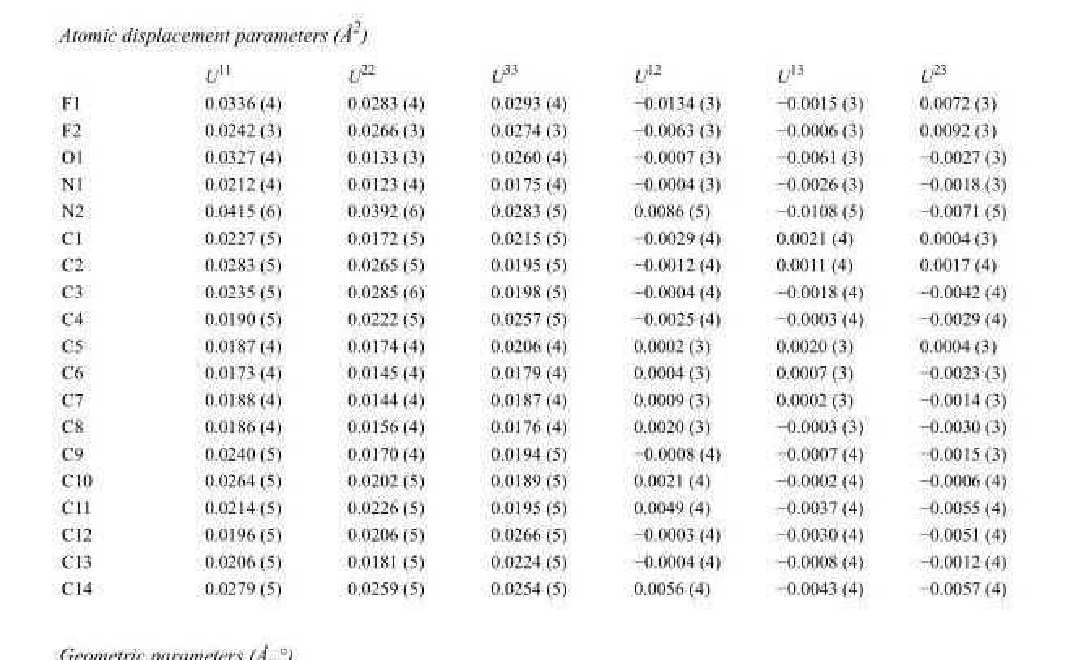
<table><thead><tr><td></td><td>U<sup>11</sup></td><td>U<sup>22</sup></td><td>U<sup>33</sup></td><td>U<sup>12</sup></td><td>U<sup>13</sup></td><td>U<sup>23</sup></td></tr></thead><tbody><tr><td>F1</td><td>0.0336 (4)</td><td>0.0283 (4)</td><td>0.0293 (4)</td><td>−0.0134 (3)</td><td>−0.0015 (3)</td><td>0.0072 (3)</td></tr><tr><td>F2</td><td>0.0242 (3)</td><td>0.0266 (3)</td><td>0.0274 (3)</td><td>−0.0063 (3)</td><td>−0.0006 (3)</td><td>0.0092 (3)</td></tr><tr><td>O1</td><td>0.0327 (4)</td><td>0.0133 (3)</td><td>0.0260 (4)</td><td>−0.0007 (3)</td><td>−0.0061 (3)</td><td>−0.0027 (3)</td></tr><tr><td>N1</td><td>0.0212 (4)</td><td>0.0123 (4)</td><td>0.0175 (4)</td><td>−0.0004 (3)</td><td>−0.0026 (3)</td><td>−0.0018 (3)</td></tr><tr><td>N2</td><td>0.0415 (6)</td><td>0.0392 (6)</td><td>0.0283 (5)</td><td>0.0086 (5)</td><td>−0.0108 (5)</td><td>−0.0071 (5)</td></tr><tr><td>C1</td><td>0.0227 (5)</td><td>0.0172 (5)</td><td>0.0215 (5)</td><td>−0.0029 (4)</td><td>0.0021 (4)</td><td>0.0004 (3)</td></tr><tr><td>C2</td><td>0.0283 (5)</td><td>0.0265 (5)</td><td>0.0195 (5)</td><td>−0.0012 (4)</td><td>0.0011 (4)</td><td>0.0017 (4)</td></tr><tr><td>C3</td><td>0.0235 (5)</td><td>0.0285 (6)</td><td>0.0198 (5)</td><td>−0.0004 (4)</td><td>−0.0018 (4)</td><td>−0.0042 (4)</td></tr><tr><td>C4</td><td>0.0190 (5)</td><td>0.0222 (5)</td><td>0.0257 (5)</td><td>−0.0025 (4)</td><td>−0.0003 (4)</td><td>−0.0029 (4)</td></tr><tr><td>C5</td><td>0.0187 (4)</td><td>0.0174 (4)</td><td>0.0206 (4)</td><td>0.0002 (3)</td><td>0.0020 (3)</td><td>0.0004 (3)</td></tr><tr><td>C6</td><td>0.0173 (4)</td><td>0.0145 (4)</td><td>0.0179 (4)</td><td>0.0004 (3)</td><td>0.0007 (3)</td><td>−0.0023 (3)</td></tr><tr><td>C7</td><td>0.0188 (4)</td><td>0.0144 (4)</td><td>0.0187 (4)</td><td>0.0009 (3)</td><td>0.0002 (3)</td><td>−0.0014 (3)</td></tr><tr><td>C8</td><td>0.0186 (4)</td><td>0.0156 (4)</td><td>0.0176 (4)</td><td>0.0020 (3)</td><td>−0.0003 (3)</td><td>−0.0030 (3)</td></tr><tr><td>C9</td><td>0.0240 (5)</td><td>0.0170 (4)</td><td>0.0194 (5)</td><td>−0.0008 (4)</td><td>−0.0007 (4)</td><td>−0.0015 (3)</td></tr><tr><td>C10</td><td>0.0264 (5)</td><td>0.0202 (5)</td><td>0.0189 (5)</td><td>0.0021 (4)</td><td>−0.0002 (4)</td><td>−0.0006 (4)</td></tr><tr><td>C11</td><td>0.0214 (5)</td><td>0.0226 (5)</td><td>0.0195 (5)</td><td>0.0049 (4)</td><td>−0.0037 (4)</td><td>−0.0055 (4)</td></tr><tr><td>C12</td><td>0.0196 (5)</td><td>0.0206 (5)</td><td>0.0266 (5)</td><td>−0.0003 (4)</td><td>−0.0030 (4)</td><td>−0.0051 (4)</td></tr><tr><td>C13</td><td>0.0206 (5)</td><td>0.0181 (5)</td><td>0.0224 (5)</td><td>−0.0004 (4)</td><td>−0.0008 (4)</td><td>−0.0012 (4)</td></tr><tr><td>C14</td><td>0.0279 (5)</td><td>0.0259 (5)</td><td>0.0254 (5)</td><td>0.0056 (4)</td><td>−0.0043 (4)</td><td>−0.0057 (4)</td></tr></tbody></table>